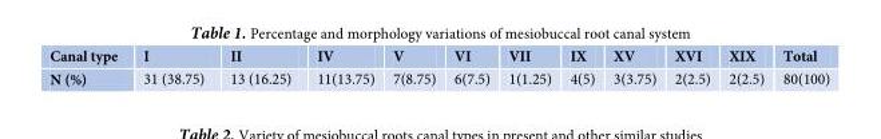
<table><thead><tr><td>Canal type</td><td>I</td><td>II</td><td>IV</td><td>V</td><td>VI</td><td>VII</td><td>IX</td><td>XV</td><td>XVI</td><td>XIX</td><td>Total</td></tr></thead><tbody><tr><td>N (%)</td><td>31 (38.75)</td><td>13 (16.25)</td><td>11(13.75)</td><td>7(8.75)</td><td>6(7.5)</td><td>1(1.25)</td><td>4(5)</td><td>3(3.75)</td><td>2(2.5)</td><td>2(2.5)</td><td>80(100)</td></tr></tbody></table>